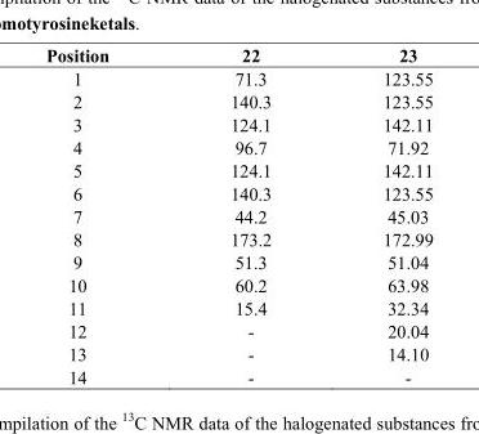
<table><thead><tr><td>Position</td><td>22</td><td>23</td></tr></thead><tbody><tr><td>1</td><td>71.3</td><td>123.55</td></tr><tr><td>2</td><td>140.3</td><td>123.55</td></tr><tr><td>3</td><td>124.1</td><td>142.11</td></tr><tr><td>4</td><td>96.7</td><td>71.92</td></tr><tr><td>5</td><td>124.1</td><td>142.11</td></tr><tr><td>6</td><td>140.3</td><td>123.55</td></tr><tr><td>7</td><td>44.2</td><td>45.03</td></tr><tr><td>8</td><td>173.2</td><td>172.99</td></tr><tr><td>9</td><td>51.3</td><td>51.04</td></tr><tr><td>10</td><td>60.2</td><td>63.98</td></tr><tr><td>11</td><td>15.4</td><td>32.34</td></tr><tr><td>12</td><td>-</td><td>20.04</td></tr><tr><td>13</td><td>-</td><td>14.10</td></tr><tr><td>14</td><td>-</td><td>-</td></tr></tbody></table>